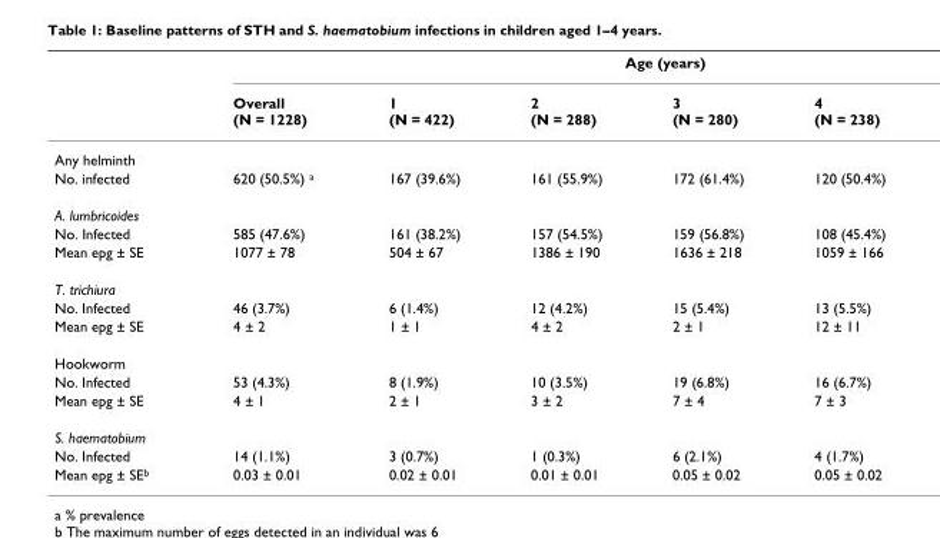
<table><thead><tr><td rowspan="2"></td><td rowspan="2">Overall (N = 1228)</td><td colspan="4">Age (years)</td></tr><tr><td>1 (N = 422)</td><td>2 (N = 288)</td><td>3 (N = 280)</td><td>4 (N = 238)</td></tr></thead><tbody><tr><td colspan="6">Any helminth</td></tr><tr><td>No. infected</td><td>620 (50.5%) <sup>a</sup></td><td>167 (39.6%)</td><td>161 (55.9%)</td><td>172 (61.4%)</td><td>120 (50.4%)</td></tr><tr><td colspan="6">A. lumbricoides</td></tr><tr><td>No. Infected</td><td>585 (47.6%)</td><td>161 (38.2%)</td><td>157 (54.5%)</td><td>159 (56.8%)</td><td>108 (45.4%)</td></tr><tr><td>Mean epg ± SE</td><td>1077 ± 78</td><td>504 ± 67</td><td>1386 ± 190</td><td>1636 ± 218</td><td>1059 ± 166</td></tr><tr><td colspan="6">T. trichiura</td></tr><tr><td>No. Infected</td><td>46 (3.7%)</td><td>6 (1.4%)</td><td>12 (4.2%)</td><td>15 (5.4%)</td><td>13 (5.5%)</td></tr><tr><td>Mean epg ± SE</td><td>4 ± 2</td><td>1 ± 1</td><td>4 ± 2</td><td>2 ± 1</td><td>12 ± 11</td></tr><tr><td colspan="6">Hookworm</td></tr><tr><td>No. Infected</td><td>53 (4.3%)</td><td>8 (1.9%)</td><td>10 (3.5%)</td><td>19 (6.8%)</td><td>16 (6.7%)</td></tr><tr><td>Mean epg ± SE</td><td>4 ± 1</td><td>2 ± 1</td><td>3 ± 2</td><td>7 ± 4</td><td>7 ± 3</td></tr><tr><td colspan="6">S. haematobium</td></tr><tr><td>No. Infected</td><td>14 (1.1%)</td><td>3 (0.7%)</td><td>1 (0.3%)</td><td>6 (2.1%)</td><td>4 (1.7%)</td></tr><tr><td>Mean epg ± SE<sup>b</sup></td><td>0.03 ± 0.01</td><td>0.02 ± 0.01</td><td>0.01 ± 0.01</td><td>0.05 ± 0.02</td><td>0.05 ± 0.02</td></tr></tbody></table>